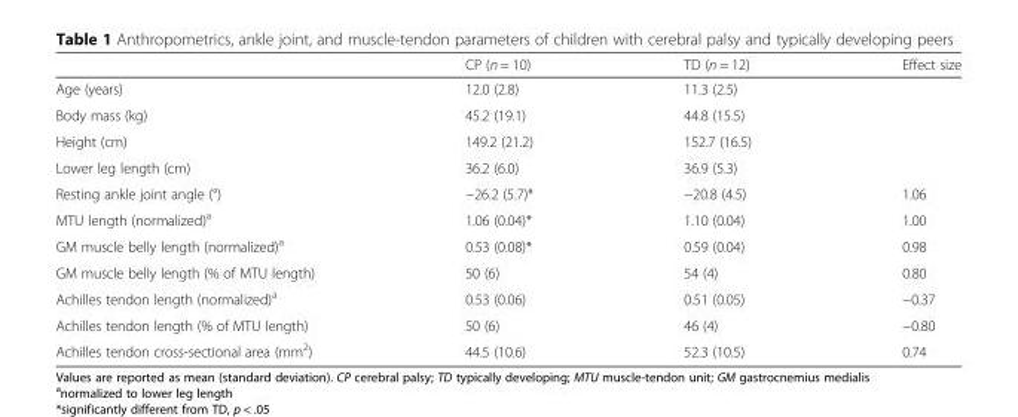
<table><thead><tr><td></td><td>CP (n = 10)</td><td>TD (n = 12)</td><td>Effect size</td></tr></thead><tbody><tr><td>Age (years)</td><td>12.0 (2.8)</td><td>11.3 (2.5)</td><td></td></tr><tr><td>Body mass (kg)</td><td>45.2 (19.1)</td><td>44.8 (15.5)</td><td></td></tr><tr><td>Height (cm)</td><td>149.2 (21.2)</td><td>152.7 (16.5)</td><td></td></tr><tr><td>Lower leg length (cm)</td><td>36.2 (6.0)</td><td>36.9 (5.3)</td><td></td></tr><tr><td>Resting ankle joint angle (°)</td><td>−26.2 (5.7)*</td><td>−20.8 (4.5)</td><td>1.06</td></tr><tr><td>MTU length (normalized)<sup>a</sup></td><td>1.06 (0.04)*</td><td>1.10 (0.04)</td><td>1.00</td></tr><tr><td>GM muscle belly length (normalized)<sup>a</sup></td><td>0.53 (0.08)*</td><td>0.59 (0.04)</td><td>0.98</td></tr><tr><td>GM muscle belly length (% of MTU length)</td><td>50 (6)</td><td>54 (4)</td><td>0.80</td></tr><tr><td>Achilles tendon length (normalized)<sup>a</sup></td><td>0.53 (0.06)</td><td>0.51 (0.05)</td><td>−0.37</td></tr><tr><td>Achilles tendon length (% of MTU length)</td><td>50 (6)</td><td>46 (4)</td><td>−0.80</td></tr><tr><td>Achilles tendon cross-sectional area (mm<sup>2</sup>)</td><td>44.5 (10.6)</td><td>52.3 (10.5)</td><td>0.74</td></tr></tbody></table>